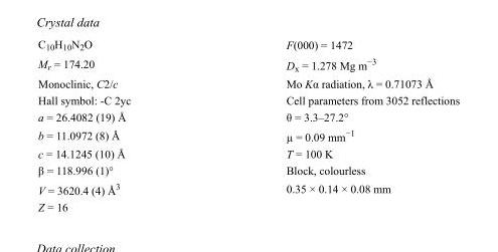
<table><tbody><tr><td>C<sub>10</sub>H<sub>10</sub>N<sub>2</sub>O</td><td>F(000) = 1472</td></tr><tr><td>M<sub>r</sub> = 174.20</td><td>D<sub>x</sub> = 1.278 Mg m<sup>−3</sup></td></tr><tr><td>Monoclinic, C2/c</td><td>Mo Kα radiation, λ = 0.71073 Å</td></tr><tr><td>Hall symbol: -C 2yc</td><td>Cell parameters from 3052 reflections</td></tr><tr><td>a = 26.4082 (19) Å</td><td>θ = 3.3–27.2°</td></tr><tr><td>b = 11.0972 (8) Å</td><td>µ = 0.09 mm<sup>−1</sup></td></tr><tr><td>c = 14.1245 (10) Å</td><td>T = 100 K</td></tr><tr><td>β = 118.996 (1)°</td><td>Block, colourless</td></tr><tr><td>V = 3620.4 (4) Å<sup>3</sup></td><td>0.35 × 0.14 × 0.08 mm</td></tr><tr><td>Z = 16</td><td></td></tr></tbody></table>